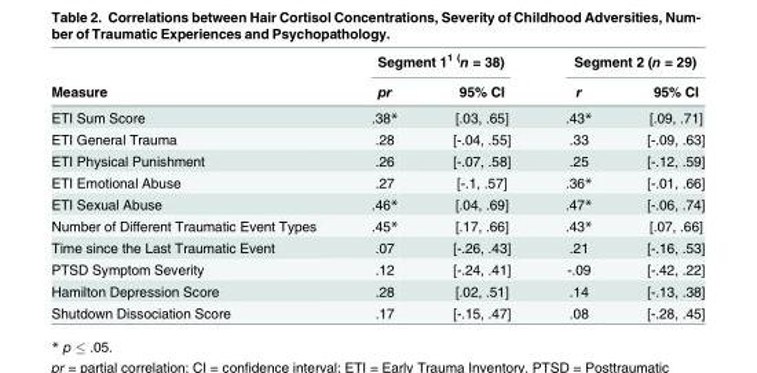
<table><thead><tr><td rowspan="2">Measure</td><td colspan="2">Segment 1<sup>1 (</sup>n = 38)</td><td colspan="2">Segment 2 (n = 29)</td></tr><tr><td>pr</td><td>95% CI</td><td>r</td><td>95% CI</td></tr></thead><tbody><tr><td>ETI Sum Score</td><td>.38*</td><td>[.03, .65]</td><td>.43*</td><td>[.09, .71]</td></tr><tr><td>ETI General Trauma</td><td>.28</td><td>[-.04, .55]</td><td>.33</td><td>[-.09, .63]</td></tr><tr><td>ETI Physical Punishment</td><td>.26</td><td>[-.07, .58]</td><td>.25</td><td>[-.12, .59]</td></tr><tr><td>ETI Emotional Abuse</td><td>.27</td><td>[-.1, .57]</td><td>.36*</td><td>[-.01, .66]</td></tr><tr><td>ETI Sexual Abuse</td><td>.46*</td><td>[.04, .69]</td><td>.47*</td><td>[-.06, .74]</td></tr><tr><td>Number of Different Traumatic Event Types</td><td>.45*</td><td>[.17, .66]</td><td>.43*</td><td>[.07, .66]</td></tr><tr><td>Time since the Last Traumatic Event</td><td>.07</td><td>[-.26, .43]</td><td>.21</td><td>[-.16, .53]</td></tr><tr><td>PTSD Symptom Severity</td><td>.12</td><td>[-.24, .41]</td><td>-.09</td><td>[-.42, .22]</td></tr><tr><td>Hamilton Depression Score</td><td>.28</td><td>[.02, .51]</td><td>.14</td><td>[-.13, .38]</td></tr><tr><td>Shutdown Dissociation Score</td><td>.17</td><td>[-.15, .47]</td><td>.08</td><td>[-.28, .45]</td></tr></tbody></table>